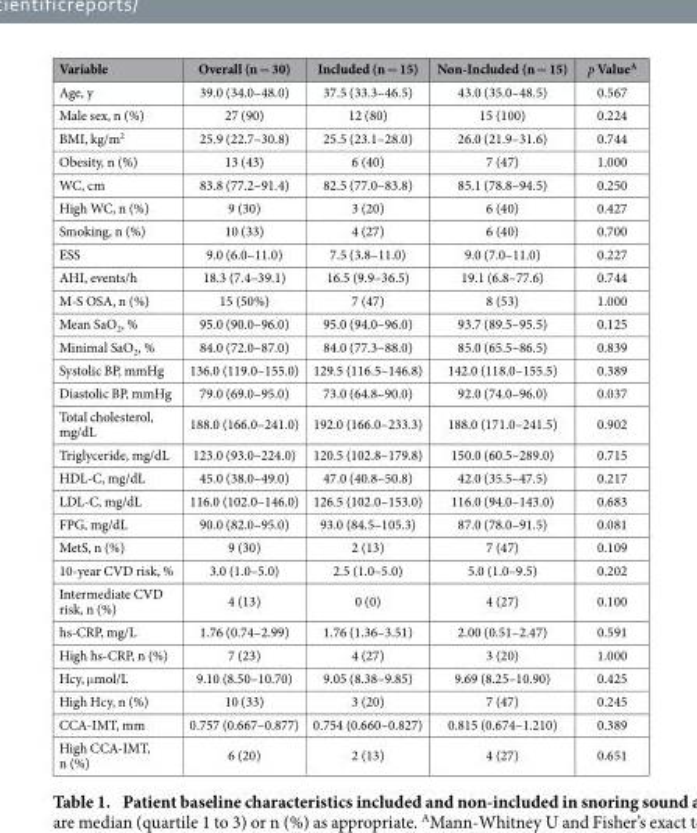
<table><thead><tr><td>Variable</td><td>Overall (n = 30)</td><td>Included (n = 15)</td><td>Non-Included (n = 15)</td><td>p Value<sup>A</sup></td></tr></thead><tbody><tr><td>Age, y</td><td>39.0 (34.0–48.0)</td><td>37.5 (33.3–46.5)</td><td>43.0 (35.0–48.5)</td><td>0.567</td></tr><tr><td>Male sex, n (%)</td><td>27 (90)</td><td>12 (80)</td><td>15 (100)</td><td>0.224</td></tr><tr><td>BMI, kg/m<sup>2</sup></td><td>25.9 (22.7–30.8)</td><td>25.5 (23.1–28.0)</td><td>26.0 (21.9–31.6)</td><td>0.744</td></tr><tr><td>Obesity, n (%)</td><td>13 (43)</td><td>6 (40)</td><td>7 (47)</td><td>1.000</td></tr><tr><td>WC, cm</td><td>83.8 (77.2–91.4)</td><td>82.5 (77.0–83.8)</td><td>85.1 (78.8–94.5)</td><td>0.250</td></tr><tr><td>High WC, n (%)</td><td>9 (30)</td><td>3 (20)</td><td>6 (40)</td><td>0.427</td></tr><tr><td>Smoking, n (%)</td><td>10 (33)</td><td>4 (27)</td><td>6 (40)</td><td>0.700</td></tr><tr><td>ESS</td><td>9.0 (6.0–11.0)</td><td>7.5 (3.8–11.0)</td><td>9.0 (7.0–11.0)</td><td>0.227</td></tr><tr><td>AHI, events/h</td><td>18.3 (7.4–39.1)</td><td>16.5 (9.9–36.5)</td><td>19.1 (6.8–77.6)</td><td>0.744</td></tr><tr><td>M-S OSA, n (%)</td><td>15 (50%)</td><td>7 (47)</td><td>8 (53)</td><td>1.000</td></tr><tr><td>Mean SaO<sub>2</sub>, %</td><td>95.0 (90.0–96.0)</td><td>95.0 (94.0–96.0)</td><td>93.7 (89.5–95.5)</td><td>0.125</td></tr><tr><td>Minimal SaO<sub>2</sub>, %</td><td>84.0 (72.0–87.0)</td><td>84.0 (77.3–88.0)</td><td>85.0 (65.5–86.5)</td><td>0.839</td></tr><tr><td>Systolic BP, mmHg</td><td>136.0 (119.0–155.0)</td><td>129.5 (116.5–146.8)</td><td>142.0 (118.0–155.5)</td><td>0.389</td></tr><tr><td>Diastolic BP, mmHg</td><td>79.0 (69.0–95.0)</td><td>73.0 (64.8–90.0)</td><td>92.0 (74.0–96.0)</td><td>0.037</td></tr><tr><td>Total cholesterol, mg/dL</td><td>188.0 (166.0–241.0)</td><td>192.0 (166.0–233.3)</td><td>188.0 (171.0–241.5)</td><td>0.902</td></tr><tr><td>Triglyceride, mg/dL</td><td>123.0 (93.0–224.0)</td><td>120.5 (102.8–179.8)</td><td>150.0 (60.5–289.0)</td><td>0.715</td></tr><tr><td>HDL-C, mg/dL</td><td>45.0 (38.0–49.0)</td><td>47.0 (40.8–50.8)</td><td>42.0 (35.5–47.5)</td><td>0.217</td></tr><tr><td>LDL-C, mg/dL</td><td>116.0 (102.0–146.0)</td><td>126.5 (102.0–153.0)</td><td>116.0 (94.0–143.0)</td><td>0.683</td></tr><tr><td>FPG, mg/dL</td><td>90.0 (82.0–95.0)</td><td>93.0 (84.5–105.3)</td><td>87.0 (78.0–91.5)</td><td>0.081</td></tr><tr><td>MetS, n (%)</td><td>9 (30)</td><td>2 (13)</td><td>7 (47)</td><td>0.109</td></tr><tr><td>10-year CVD risk, %</td><td>3.0 (1.0–5.0)</td><td>2.5 (1.0–5.0)</td><td>5.0 (1.0–9.5)</td><td>0.202</td></tr><tr><td>Intermediate CVD risk, n (%)</td><td>4 (13)</td><td>0 (0)</td><td>4 (27)</td><td>0.100</td></tr><tr><td>hs-CRP, mg/L</td><td>1.76 (0.74–2.99)</td><td>1.76 (1.36–3.51)</td><td>2.00 (0.51–2.47)</td><td>0.591</td></tr><tr><td>High hs-CRP, n (%)</td><td>7 (23)</td><td>4 (27)</td><td>3 (20)</td><td>1.000</td></tr><tr><td>Hcy, μ mol/L</td><td>9.10 (8.50–10.70)</td><td>9.05 (8.38–9.85)</td><td>9.69 (8.25–10.90)</td><td>0.425</td></tr><tr><td>High Hcy, n (%)</td><td>10 (33)</td><td>3 (20)</td><td>7 (47)</td><td>0.245</td></tr><tr><td>CCA-IMT, mm</td><td>0.757 (0.667–0.877)</td><td>0.754 (0.660–0.827)</td><td>0.815 (0.674–1.210)</td><td>0.389</td></tr><tr><td>High CCA-IMT, n (%)</td><td>6 (20)</td><td>2 (13)</td><td>4 (27)</td><td>0.651</td></tr></tbody></table>